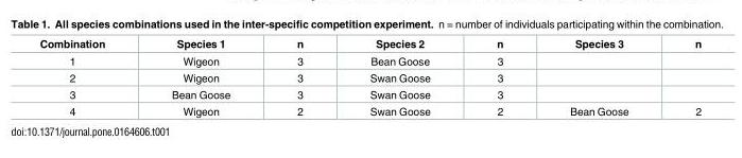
<table><thead><tr><td>Combination</td><td>Species 1</td><td>n</td><td>Species 2</td><td>n</td><td>Species 3</td><td>n</td></tr></thead><tbody><tr><td>1</td><td>Wigeon</td><td>3</td><td>Bean Goose</td><td>3</td><td></td><td></td></tr><tr><td>2</td><td>Wigeon</td><td>3</td><td>Swan Goose</td><td>3</td><td></td><td></td></tr><tr><td>3</td><td>Bean Goose</td><td>3</td><td>Swan Goose</td><td>3</td><td></td><td></td></tr><tr><td>4</td><td>Wigeon</td><td>2</td><td>Swan Goose</td><td>2</td><td>Bean Goose</td><td>2</td></tr></tbody></table>